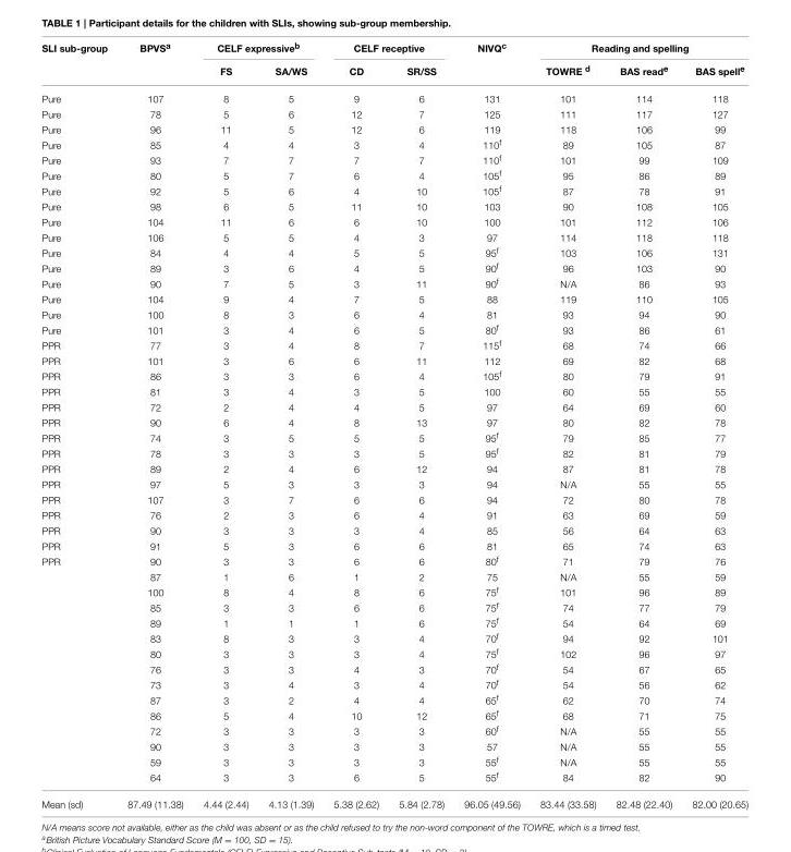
<table><thead><tr><td rowspan="2">SLI sub-group</td><td rowspan="2">BPVS<sup>a</sup></td><td colspan="2">CELF expressive<sup>b</sup></td><td colspan="2">CELF receptive</td><td rowspan="2">NIVQ<sup>c</sup></td><td colspan="3">Reading and spelling</td></tr><tr><td>FS</td><td>SA/WS</td><td>CD</td><td>SR/SS</td><td>TOWRE <sup>d</sup></td><td>BAS read<sup>e</sup></td><td>BAS spell<sup>e</sup></td></tr></thead><tbody><tr><td>Pure</td><td>107</td><td>8</td><td>5</td><td>9</td><td>6</td><td>131</td><td>101</td><td>114</td><td>118</td></tr><tr><td>Pure</td><td>78</td><td>5</td><td>6</td><td>12</td><td>7</td><td>125</td><td>111</td><td>117</td><td>127</td></tr><tr><td>Pure</td><td>96</td><td>11</td><td>5</td><td>12</td><td>6</td><td>119</td><td>118</td><td>106</td><td>99</td></tr><tr><td>Pure</td><td>85</td><td>4</td><td>4</td><td>3</td><td>4</td><td>110<sup>f</sup></td><td>89</td><td>105</td><td>87</td></tr><tr><td>Pure</td><td>93</td><td>7</td><td>7</td><td>7</td><td>7</td><td>110<sup>f</sup></td><td>101</td><td>99</td><td>109</td></tr><tr><td>Pure</td><td>80</td><td>5</td><td>7</td><td>6</td><td>4</td><td>105<sup>f</sup></td><td>95</td><td>86</td><td>89</td></tr><tr><td>Pure</td><td>92</td><td>5</td><td>6</td><td>4</td><td>10</td><td>105<sup>f</sup></td><td>87</td><td>78</td><td>91</td></tr><tr><td>Pure</td><td>98</td><td>6</td><td>5</td><td>11</td><td>10</td><td>103</td><td>90</td><td>108</td><td>105</td></tr><tr><td>Pure</td><td>104</td><td>11</td><td>6</td><td>6</td><td>10</td><td>100</td><td>101</td><td>112</td><td>106</td></tr><tr><td>Pure</td><td>106</td><td>5</td><td>5</td><td>4</td><td>3</td><td>97</td><td>114</td><td>118</td><td>118</td></tr><tr><td>Pure</td><td>84</td><td>4</td><td>4</td><td>5</td><td>5</td><td>95<sup>f</sup></td><td>103</td><td>106</td><td>131</td></tr><tr><td>Pure</td><td>89</td><td>3</td><td>6</td><td>4</td><td>5</td><td>90<sup>f</sup></td><td>96</td><td>103</td><td>90</td></tr><tr><td>Pure</td><td>90</td><td>7</td><td>5</td><td>3</td><td>11</td><td>90<sup>f</sup></td><td>N/A</td><td>86</td><td>93</td></tr><tr><td>Pure</td><td>104</td><td>9</td><td>4</td><td>7</td><td>5</td><td>88</td><td>119</td><td>110</td><td>105</td></tr><tr><td>Pure</td><td>100</td><td>8</td><td>3</td><td>6</td><td>4</td><td>81</td><td>93</td><td>94</td><td>90</td></tr><tr><td>Pure</td><td>101</td><td>3</td><td>4</td><td>6</td><td>5</td><td>80<sup>f</sup></td><td>93</td><td>86</td><td>61</td></tr><tr><td>PPR</td><td>77</td><td>3</td><td>4</td><td>8</td><td>7</td><td>115<sup>f</sup></td><td>68</td><td>74</td><td>66</td></tr><tr><td>PPR</td><td>101</td><td>3</td><td>6</td><td>6</td><td>11</td><td>112</td><td>69</td><td>82</td><td>68</td></tr><tr><td>PPR</td><td>86</td><td>3</td><td>3</td><td>6</td><td>4</td><td>105<sup>f</sup></td><td>80</td><td>79</td><td>91</td></tr><tr><td>PPR</td><td>81</td><td>3</td><td>4</td><td>3</td><td>5</td><td>100</td><td>60</td><td>55</td><td>55</td></tr><tr><td>PPR</td><td>72</td><td>2</td><td>4</td><td>4</td><td>5</td><td>97</td><td>64</td><td>69</td><td>60</td></tr><tr><td>PPR</td><td>90</td><td>6</td><td>4</td><td>8</td><td>13</td><td>97</td><td>80</td><td>82</td><td>78</td></tr><tr><td>PPR</td><td>74</td><td>3</td><td>5</td><td>5</td><td>5</td><td>95<sup>f</sup></td><td>79</td><td>85</td><td>77</td></tr><tr><td>PPR</td><td>78</td><td>3</td><td>3</td><td>3</td><td>5</td><td>95<sup>f</sup></td><td>82</td><td>81</td><td>79</td></tr><tr><td>PPR</td><td>89</td><td>2</td><td>4</td><td>6</td><td>12</td><td>94</td><td>87</td><td>81</td><td>78</td></tr><tr><td>PPR</td><td>97</td><td>5</td><td>3</td><td>3</td><td>3</td><td>94</td><td>N/A</td><td>55</td><td>55</td></tr><tr><td>PPR</td><td>107</td><td>3</td><td>7</td><td>6</td><td>6</td><td>94</td><td>72</td><td>80</td><td>78</td></tr><tr><td>PPR</td><td>76</td><td>2</td><td>3</td><td>6</td><td>4</td><td>91</td><td>63</td><td>69</td><td>59</td></tr><tr><td>PPR</td><td>90</td><td>3</td><td>3</td><td>3</td><td>4</td><td>85</td><td>56</td><td>64</td><td>63</td></tr><tr><td>PPR</td><td>91</td><td>5</td><td>3</td><td>6</td><td>6</td><td>81</td><td>65</td><td>74</td><td>63</td></tr><tr><td rowspan="15">PPR</td><td>90</td><td>3</td><td>3</td><td>6</td><td>6</td><td>80<sup>f</sup></td><td>71</td><td>79</td><td>76</td></tr><tr><td>87</td><td>1</td><td>6</td><td>1</td><td>2</td><td>75</td><td>N/A</td><td>55</td><td>59</td></tr><tr><td>100</td><td>8</td><td>4</td><td>8</td><td>6</td><td>75<sup>f</sup></td><td>101</td><td>96</td><td>89</td></tr><tr><td>85</td><td>3</td><td>3</td><td>6</td><td>6</td><td>75<sup>f</sup></td><td>74</td><td>77</td><td>79</td></tr><tr><td>89</td><td>1</td><td>1</td><td>1</td><td>6</td><td>75<sup>f</sup></td><td>54</td><td>64</td><td>69</td></tr><tr><td>83</td><td>8</td><td>3</td><td>3</td><td>4</td><td>70<sup>f</sup></td><td>94</td><td>92</td><td>101</td></tr><tr><td>80</td><td>3</td><td>3</td><td>3</td><td>4</td><td>75<sup>f</sup></td><td>102</td><td>96</td><td>97</td></tr><tr><td>76</td><td>3</td><td>3</td><td>4</td><td>3</td><td>70<sup>f</sup></td><td>54</td><td>67</td><td>65</td></tr><tr><td>73</td><td>3</td><td>4</td><td>3</td><td>4</td><td>70<sup>f</sup></td><td>54</td><td>56</td><td>62</td></tr><tr><td>87</td><td>3</td><td>2</td><td>4</td><td>4</td><td>65<sup>f</sup></td><td>62</td><td>70</td><td>74</td></tr><tr><td>86</td><td>5</td><td>4</td><td>10</td><td>12</td><td>65<sup>f</sup></td><td>68</td><td>71</td><td>75</td></tr><tr><td>72</td><td>3</td><td>3</td><td>3</td><td>3</td><td>60<sup>f</sup></td><td>N/A</td><td>55</td><td>55</td></tr><tr><td>90</td><td>3</td><td>3</td><td>3</td><td>3</td><td>57</td><td>N/A</td><td>55</td><td>55</td></tr><tr><td>59</td><td>3</td><td>3</td><td>3</td><td>3</td><td>55<sup>f</sup></td><td>N/A</td><td>55</td><td>55</td></tr><tr><td>64</td><td>3</td><td>3</td><td>6</td><td>5</td><td>55<sup>f</sup></td><td>84</td><td>82</td><td>90</td></tr><tr><td>Mean (sd)</td><td>87.49 (11.38)</td><td>4.44 (2.44)</td><td>4.13 (1.39)</td><td>5.38 (2.62)</td><td>5.84 (2.78)</td><td>96.05 (49.56)</td><td>83.44 (33.58)</td><td>82.48 (22.40)</td><td>82.00 (20.65)</td></tr></tbody></table>